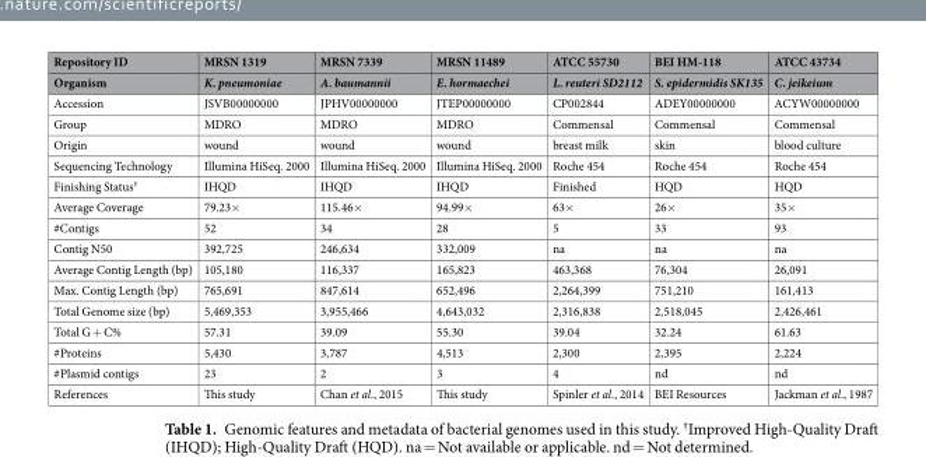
<table><thead><tr><td rowspan="2">Repository ID Organism</td><td rowspan="2">MRSN 1319 K. pneumoniae</td><td rowspan="2">MRSN 7339 A. baumannii</td><td rowspan="2">MRSN 11489 E. hormaechei</td><td rowspan="2">ATCC 55730 L. reuteri SD2112</td><td rowspan="2">BEI HM-118 S. epidermidis SK135</td><td rowspan="2">ATCC 43734 C. jeikeium</td></tr><tr></tr></thead><tbody><tr><td>Accession</td><td>JSVB00000000</td><td>JPHV00000000</td><td>JTEP00000000</td><td>CP002844</td><td>ADEY00000000</td><td>ACYW00000000</td></tr><tr><td>Group</td><td>MDRO</td><td>MDRO</td><td>MDRO</td><td>Commensal</td><td>Commensal</td><td>Commensal</td></tr><tr><td>Origin</td><td>wound</td><td>wound</td><td>wound</td><td>breast milk</td><td>skin</td><td>blood culture</td></tr><tr><td>Sequencing Technology</td><td>Illumina HiSeq. 2000</td><td>Illumina HiSeq. 2000</td><td>Illumina HiSeq. 2000</td><td>Roche 454</td><td>Roche 454</td><td>Roche 454</td></tr><tr><td>Finishing Status<sup>†</sup></td><td>IHQD</td><td>IHQD</td><td>IHQD</td><td>Finished</td><td>HQD</td><td>HQD</td></tr><tr><td>Average Coverage</td><td>79.23×</td><td>115.46×</td><td>94.99×</td><td>63×</td><td>26×</td><td>35×</td></tr><tr><td>#Contigs</td><td>52</td><td>34</td><td>28</td><td>5</td><td>33</td><td>93</td></tr><tr><td>Contig N50</td><td>392,725</td><td>246,634</td><td>332,009</td><td>na</td><td>na</td><td>na</td></tr><tr><td>Average Contig Length (bp)</td><td>105,180</td><td>116,337</td><td>165,823</td><td>463,368</td><td>76,304</td><td>26,091</td></tr><tr><td>Max. Contig Length (bp)</td><td>765,691</td><td>847,614</td><td>652,496</td><td>2,264,399</td><td>751,210</td><td>161,413</td></tr><tr><td>Total Genome size (bp)</td><td>5,469,353</td><td>3,955,466</td><td>4,643,032</td><td>2,316,838</td><td>2,518,045</td><td>2,426,461</td></tr><tr><td>Total G + C%</td><td>57.31</td><td>39.09</td><td>55.30</td><td>39.04</td><td>32.24</td><td>61.63</td></tr><tr><td>#Proteins</td><td>5,430</td><td>3,787</td><td>4,513</td><td>2,300</td><td>2,395</td><td>2,224</td></tr><tr><td>#Plasmid contigs</td><td>23</td><td>2</td><td>3</td><td>4</td><td>nd</td><td>nd</td></tr><tr><td>References</td><td>This study</td><td>Chan et al., 2015</td><td>This study</td><td>Spinler et al., 2014</td><td>BEI Resources</td><td>Jackman et al., 1987</td></tr></tbody></table>